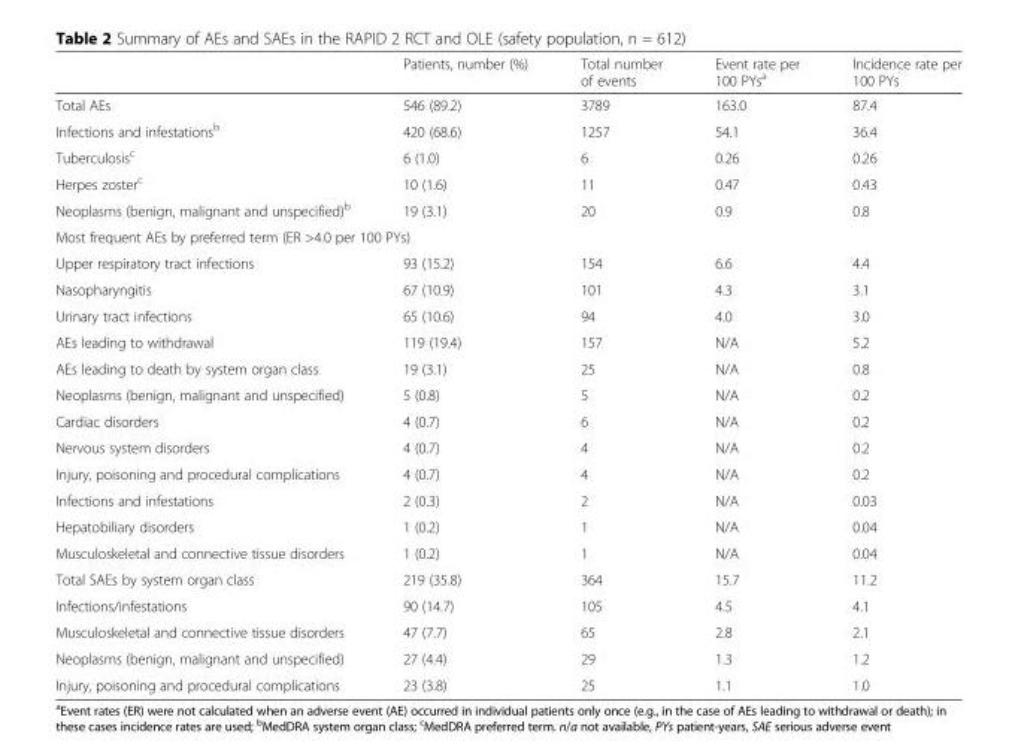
<table><thead><tr><td></td><td>Patients, number (%)</td><td>Total number of events</td><td>Event rate per 100 PYs<sup>a</sup></td><td>Incidence rate per 100 PYs</td></tr></thead><tbody><tr><td>Total AEs</td><td>546 (89.2)</td><td>3789</td><td>163.0</td><td>87.4</td></tr><tr><td>Infections and infestations<sup>b</sup></td><td>420 (68.6)</td><td>1257</td><td>54.1</td><td>36.4</td></tr><tr><td>Tuberculosis<sup>c</sup></td><td>6 (1.0)</td><td>6</td><td>0.26</td><td>0.26</td></tr><tr><td>Herpes zoster<sup>c</sup></td><td>10 (1.6)</td><td>11</td><td>0.47</td><td>0.43</td></tr><tr><td>Neoplasms (benign, malignant and unspecified)<sup>b</sup></td><td>19 (3.1)</td><td>20</td><td>0.9</td><td>0.8</td></tr><tr><td colspan="5">Most frequent AEs by preferred term (ER &gt;4.0 per 100 PYs)</td></tr><tr><td>Upper respiratory tract infections</td><td>93 (15.2)</td><td>154</td><td>6.6</td><td>4.4</td></tr><tr><td>Nasopharyngitis</td><td>67 (10.9)</td><td>101</td><td>4.3</td><td>3.1</td></tr><tr><td>Urinary tract infections</td><td>65 (10.6)</td><td>94</td><td>4.0</td><td>3.0</td></tr><tr><td>AEs leading to withdrawal</td><td>119 (19.4)</td><td>157</td><td>N/A</td><td>5.2</td></tr><tr><td>AEs leading to death by system organ class</td><td>19 (3.1)</td><td>25</td><td>N/A</td><td>0.8</td></tr><tr><td>Neoplasms (benign, malignant and unspecified)</td><td>5 (0.8)</td><td>5</td><td>N/A</td><td>0.2</td></tr><tr><td>Cardiac disorders</td><td>4 (0.7)</td><td>6</td><td>N/A</td><td>0.2</td></tr><tr><td>Nervous system disorders</td><td>4 (0.7)</td><td>4</td><td>N/A</td><td>0.2</td></tr><tr><td>Injury, poisoning and procedural complications</td><td>4 (0.7)</td><td>4</td><td>N/A</td><td>0.2</td></tr><tr><td>Infections and infestations</td><td>2 (0.3)</td><td>2</td><td>N/A</td><td>0.03</td></tr><tr><td>Hepatobiliary disorders</td><td>1 (0.2)</td><td>1</td><td>N/A</td><td>0.04</td></tr><tr><td>Musculoskeletal and connective tissue disorders</td><td>1 (0.2)</td><td>1</td><td>N/A</td><td>0.04</td></tr><tr><td>Total SAEs by system organ class</td><td>219 (35.8)</td><td>364</td><td>15.7</td><td>11.2</td></tr><tr><td>Infections/infestations</td><td>90 (14.7)</td><td>105</td><td>4.5</td><td>4.1</td></tr><tr><td>Musculoskeletal and connective tissue disorders</td><td>47 (7.7)</td><td>65</td><td>2.8</td><td>2.1</td></tr><tr><td>Neoplasms (benign, malignant and unspecified)</td><td>27 (4.4)</td><td>29</td><td>1.3</td><td>1.2</td></tr><tr><td>Injury, poisoning and procedural complications</td><td>23 (3.8)</td><td>25</td><td>1.1</td><td>1.0</td></tr></tbody></table>